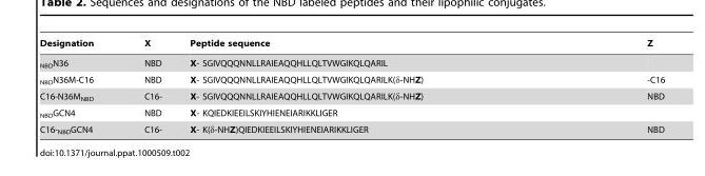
<table><thead><tr><td>Designation</td><td>X</td><td>Peptide sequence</td><td>Z</td></tr></thead><tbody><tr><td><sub>NBD</sub>N36</td><td>NBD</td><td>X- SGIVQQQNNLLRAIEAQQHLLQLTVWGIKQLQARIL</td><td></td></tr><tr><td><sub>NBD</sub>N36M-C16</td><td>NBD</td><td>X- SGIVQQQNNLLRAIEAQQHLLQLTVWGIKQLQARILK(δ-NHZ)</td><td>-C16</td></tr><tr><td>C16-N36M<sub>NBD</sub></td><td>C16-</td><td>X- SGIVQQQNNLLRAIEAQQHLLQLTVWGIKQLQARILK(δ-NHZ)</td><td>NBD</td></tr><tr><td><sub>NBD</sub>GCN4</td><td>NBD</td><td>X- KQIEDKIEEILSKIYHIENEIARIKKLIGER</td><td></td></tr><tr><td>C16-<sub>NBD</sub>GCN4</td><td>C16-</td><td>X- K(δ-NHZ)QIEDKIEEILSKIYHIENEIARIKKLIGER</td><td>NBD</td></tr></tbody></table>